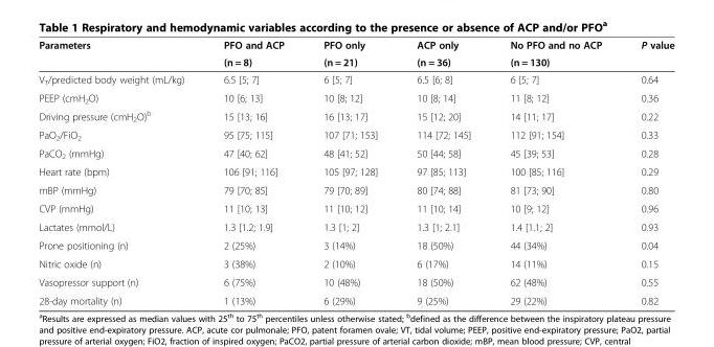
<table><thead><tr><td rowspan="2">Parameters</td><td rowspan="2">PFO and ACP (n = 8)</td><td rowspan="2">PFO only (n = 21)</td><td rowspan="2">ACP only (n = 36)</td><td rowspan="2">No PFO and no ACP (n = 130)</td><td rowspan="2">P value</td></tr><tr></tr></thead><tbody><tr><td>V<sub>T</sub>/predicted body weight (mL/kg)</td><td>6.5 [5; 7]</td><td>6 [5; 7]</td><td>6.5 [6; 8]</td><td>6 [5; 7]</td><td>0.64</td></tr><tr><td>PEEP (cmH<sub>2</sub>O)</td><td>10 [6; 13]</td><td>10 [8; 12]</td><td>10 [8; 14]</td><td>11 [8; 12]</td><td>0.36</td></tr><tr><td>Driving pressure (cmH<sub>2</sub>O)<sup>b</sup></td><td>15 [13; 16]</td><td>16 [13; 17]</td><td>15 [12; 20]</td><td>14 [11; 17]</td><td>0.22</td></tr><tr><td>PaO<sub>2</sub>/FiO<sub>2</sub></td><td>95 [75; 115]</td><td>107 [71; 153]</td><td>114 [72; 145]</td><td>112 [91; 154]</td><td>0.33</td></tr><tr><td>PaCO<sub>2</sub> (mmHg)</td><td>47 [40; 62]</td><td>48 [41; 52]</td><td>50 [44; 58]</td><td>45 [39; 53]</td><td>0.28</td></tr><tr><td>Heart rate (bpm)</td><td>106 [91; 116]</td><td>105 [97; 128]</td><td>97 [85; 113]</td><td>100 [85; 116]</td><td>0.29</td></tr><tr><td>mBP (mmHg)</td><td>79 [70; 85]</td><td>79 [70; 89]</td><td>80 [74; 88]</td><td>81 [73; 90]</td><td>0.80</td></tr><tr><td>CVP (mmHg)</td><td>11 [10; 13]</td><td>11 [10; 12]</td><td>11 [10; 14]</td><td>10 [9; 12]</td><td>0.96</td></tr><tr><td>Lactates (mmol/L)</td><td>1.3 [1.2; 1.9]</td><td>1.3 [1; 2]</td><td>1.3 [1; 2.1]</td><td>1.4 [1.1; 2]</td><td>0.93</td></tr><tr><td>Prone positioning (n)</td><td>2 (25%)</td><td>3 (14%)</td><td>18 (50%)</td><td>44 (34%)</td><td>0.04</td></tr><tr><td>Nitric oxide (n)</td><td>3 (38%)</td><td>2 (10%)</td><td>6 (17%)</td><td>14 (11%)</td><td>0.15</td></tr><tr><td>Vasopressor support (n)</td><td>6 (75%)</td><td>10 (48%)</td><td>18 (50%)</td><td>62 (48%)</td><td>0.55</td></tr><tr><td>28-day mortality (n)</td><td>1 (13%)</td><td>6 (29%)</td><td>9 (25%)</td><td>29 (22%)</td><td>0.82</td></tr></tbody></table>